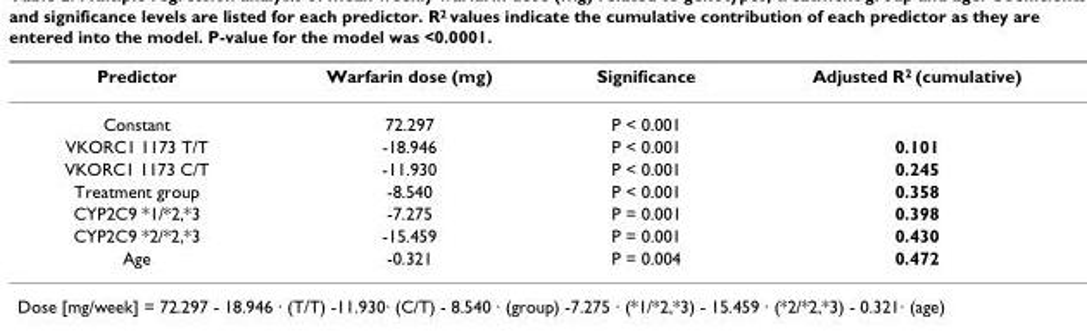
<table><thead><tr><td>Predictor</td><td>Warfarin dose (mg)</td><td>Significance</td><td>Adjusted R2 (cumulative)</td></tr></thead><tbody><tr><td>Constant</td><td>72.297</td><td>P &lt; 0.001</td><td></td></tr><tr><td>VKORC1 1173 T/T</td><td>-18.946</td><td>P &lt; 0.001</td><td>0.101</td></tr><tr><td>VKORC1 1173 C/T</td><td>-11.930</td><td>P &lt; 0.001</td><td>0.245</td></tr><tr><td>Treatment group</td><td>-8.540</td><td>P &lt; 0.001</td><td>0.358</td></tr><tr><td>CYP2C9 *1/*2,*3</td><td>-7.275</td><td>P = 0.001</td><td>0.398</td></tr><tr><td>CYP2C9 *2/*2,*3</td><td>-15.459</td><td>P = 0.001</td><td>0.430</td></tr><tr><td>Age</td><td>-0.321</td><td>P = 0.004</td><td>0.472</td></tr></tbody></table>